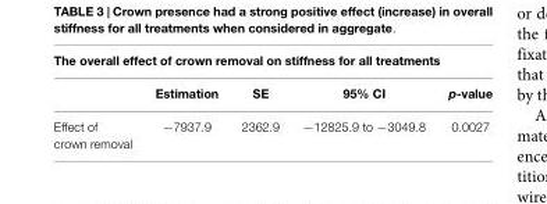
<table><thead><tr><td colspan="5">The overall effect of crown removal on stiffness for all treatments</td></tr><tr><td></td><td>Estimation</td><td>SE</td><td>95% CI</td><td>p-value</td></tr></thead><tbody><tr><td>Effect of crown removal</td><td>−7937.9</td><td>2362.9</td><td>−12825.9 to −3049.8</td><td>0.0027</td></tr></tbody></table>